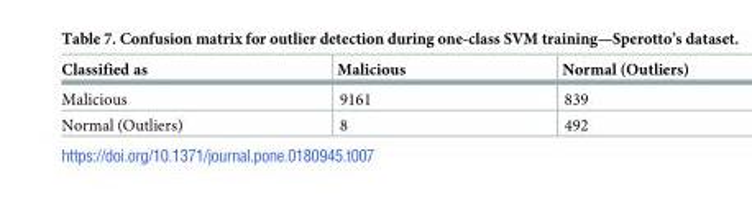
<table><thead><tr><td>Classified as</td><td>Malicious</td><td>Normal (Outliers)</td></tr></thead><tbody><tr><td>Malicious</td><td>9161</td><td>839</td></tr><tr><td>Normal (Outliers)</td><td>8</td><td>492</td></tr></tbody></table>